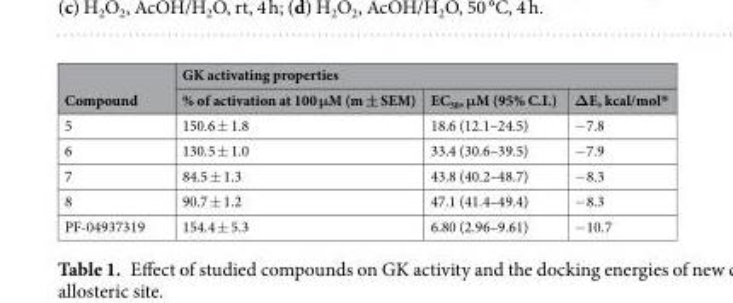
<table><thead><tr><td rowspan="2">Compound</td><td colspan="3">GK activating properties</td></tr><tr><td>% of activation at 100 μM (m ± SEM)</td><td>EC<sub>50</sub>, μM (95% C.I.)</td><td>ΔE, kcal/mol*</td></tr></thead><tbody><tr><td>5</td><td>150.6 ± 1.8</td><td>18.6 (12.1–24.5)</td><td>−7.8</td></tr><tr><td>6</td><td>130.5 ± 1.0</td><td>33.4 (30.6–39.5)</td><td>−7.9</td></tr><tr><td>7</td><td>84.5 ± 1.3</td><td>43.8 (40.2–48.7)</td><td>−8.3</td></tr><tr><td>8</td><td>90.7 ± 1.2</td><td>47.1 (41.4–49.4)</td><td>−8.3</td></tr><tr><td>PF-04937319</td><td>154.4 ± 5.3</td><td>6.80 (2.96–9.61)</td><td>−10.7</td></tr></tbody></table>